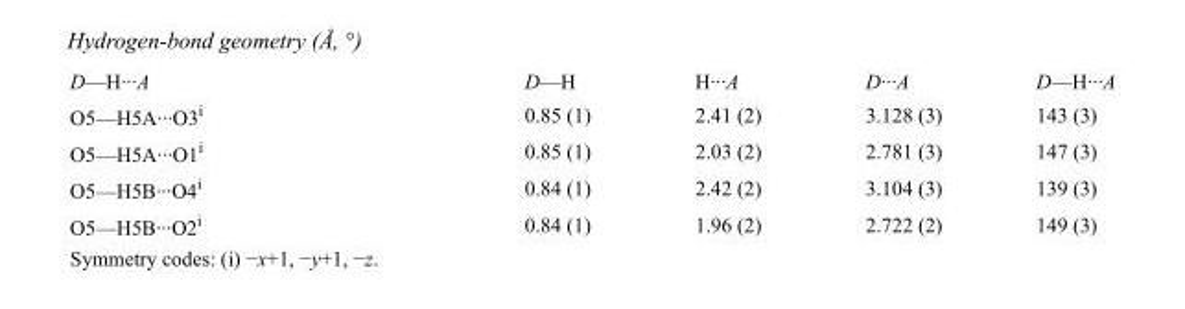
<table><tbody><tr><td>D—H···A</td><td>D—H</td><td>H···A</td><td>D···A</td><td>D—H···A</td></tr><tr><td>O5—H5A···O3<sup>i</sup></td><td>0.85 (1)</td><td>2.41 (2)</td><td>3.128 (3)</td><td>143 (3)</td></tr><tr><td>O5—H5A···O1<sup>i</sup></td><td>0.85 (1)</td><td>2.03 (2)</td><td>2.781 (3)</td><td>147 (3)</td></tr><tr><td>O5—H5B···O4<sup>i</sup></td><td>0.84 (1)</td><td>2.42 (2)</td><td>3.104 (3)</td><td>139 (3)</td></tr><tr><td>O5—H5B···O2<sup>i</sup></td><td>0.84 (1)</td><td>1.96 (2)</td><td>2.722 (2)</td><td>149 (3)</td></tr></tbody></table>